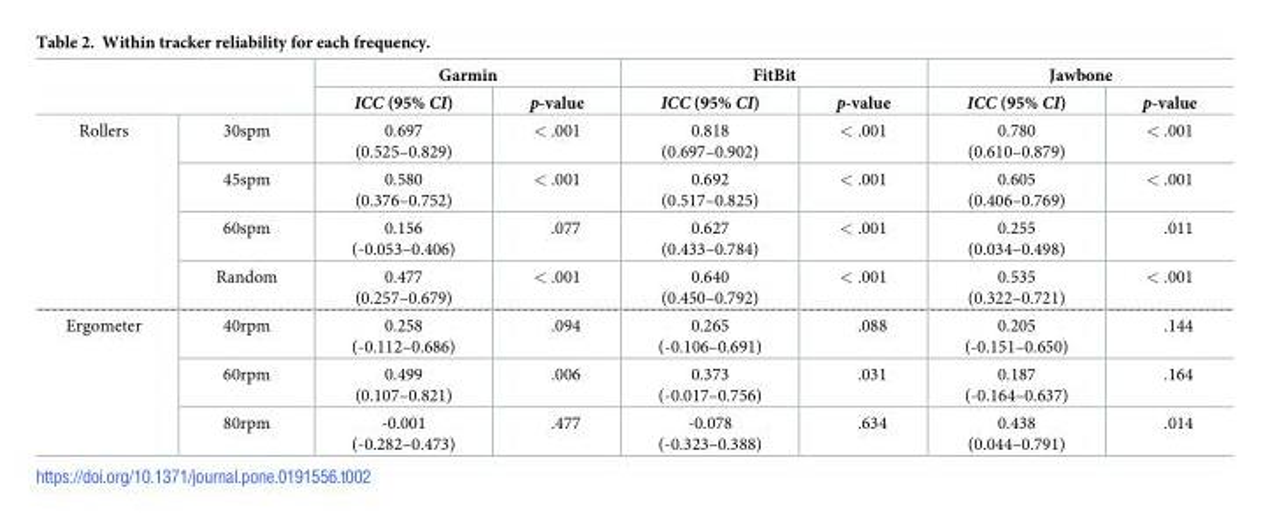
<table><thead><tr><td rowspan="2"></td><td rowspan="2"></td><td colspan="2">Garmin</td><td colspan="2">FitBit</td><td colspan="2">Jawbone</td></tr><tr><td>ICC (95% CI)</td><td>p-value</td><td>ICC (95% CI)</td><td>p-value</td><td>ICC (95% CI)</td><td>p-value</td></tr></thead><tbody><tr><td rowspan="4">Rollers</td><td>30spm</td><td>0.697 (0.525–0.829)</td><td>&lt; .001</td><td>0.818 (0.697–0.902)</td><td>&lt; .001</td><td>0.780 (0.610–0.879)</td><td>&lt; .001</td></tr><tr><td>45spm</td><td>0.580 (0.376–0.752)</td><td>&lt; .001</td><td>0.692 (0.517–0.825)</td><td>&lt; .001</td><td>0.605 (0.406–0.769)</td><td>&lt; .001</td></tr><tr><td>60spm</td><td>0.156 (-0.053–0.406)</td><td>.077</td><td>0.627 (0.433–0.784)</td><td>&lt; .001</td><td>0.255 (0.034–0.498)</td><td>.011</td></tr><tr><td>Random</td><td>0.477 (0.257–0.679)</td><td>&lt; .001</td><td>0.640 (0.450–0.792)</td><td>&lt; .001</td><td>0.535 (0.322–0.721)</td><td>&lt; .001</td></tr><tr><td rowspan="3">Ergometer</td><td>40rpm</td><td>0.258 (-0.112–0.686)</td><td>.094</td><td>0.265 (-0.106–0.691)</td><td>.088</td><td>0.205 (-0.151–0.650)</td><td>.144</td></tr><tr><td>60rpm</td><td>0.499 (0.107–0.821)</td><td>.006</td><td>0.373 (-0.017–0.756)</td><td>.031</td><td>0.187 (-0.164–0.637)</td><td>.164</td></tr><tr><td>80rpm</td><td>-0.001 (-0.282–0.473)</td><td>.477</td><td>-0.078 (-0.323–0.388)</td><td>.634</td><td>0.438 (0.044–0.791)</td><td>.014</td></tr></tbody></table>